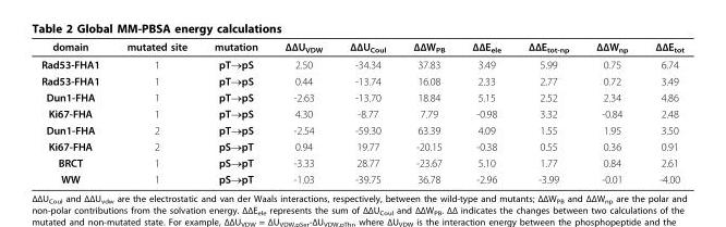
<table><thead><tr><td>domain</td><td>mutated site</td><td>mutation</td><td>ΔΔU<sub>VDW</sub></td><td>ΔΔU<sub>Coul</sub></td><td>ΔΔW<sub>PB</sub></td><td>ΔΔE<sub>ele</sub></td><td>ΔΔE<sub>tot-np</sub></td><td>ΔΔW<sub>np</sub></td><td>ΔΔE<sub>tot</sub></td></tr></thead><tbody><tr><td>Rad53-FHA1</td><td>1</td><td>pT→pS</td><td>2.50</td><td>-34.34</td><td>37.83</td><td>3.49</td><td>5.99</td><td>0.75</td><td>6.74</td></tr><tr><td>Rad53-FHA1</td><td>1</td><td>pT→pS</td><td>0.44</td><td>-13.74</td><td>16.08</td><td>2.33</td><td>2.77</td><td>0.72</td><td>3.49</td></tr><tr><td>Dun1-FHA</td><td>1</td><td>pT→pS</td><td>-2.63</td><td>-13.70</td><td>18.84</td><td>5.15</td><td>2.52</td><td>2.34</td><td>4.86</td></tr><tr><td>Ki67-FHA</td><td>1</td><td>pT→pS</td><td>4.30</td><td>-8.77</td><td>7.79</td><td>-0.98</td><td>3.32</td><td>-0.84</td><td>2.48</td></tr><tr><td>Dun1-FHA</td><td>2</td><td>pT→pS</td><td>-2.54</td><td>-59.30</td><td>63.39</td><td>4.09</td><td>1.55</td><td>1.95</td><td>3.50</td></tr><tr><td>Ki67-FHA</td><td>2</td><td>pS→pT</td><td>0.94</td><td>19.77</td><td>-20.15</td><td>-0.38</td><td>0.55</td><td>0.36</td><td>0.91</td></tr><tr><td>BRCT</td><td>1</td><td>pS→pT</td><td>-3.33</td><td>28.77</td><td>-23.67</td><td>5.10</td><td>1.77</td><td>0.84</td><td>2.61</td></tr><tr><td>WW</td><td>1</td><td>pS→pT</td><td>-1.03</td><td>-39.75</td><td>36.78</td><td>-2.96</td><td>-3.99</td><td>-0.01</td><td>-4.00</td></tr></tbody></table>